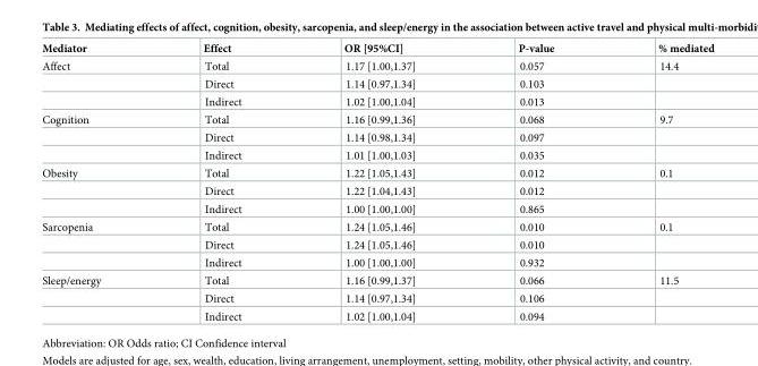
<table><thead><tr><td>Mediator</td><td>Effect</td><td>OR [95%CI]</td><td>P-value</td><td>% mediated</td></tr></thead><tbody><tr><td rowspan="3">Affect</td><td>Total</td><td>1.17 [1.00,1.37]</td><td>0.057</td><td>14.4</td></tr><tr><td>Direct</td><td>1.14 [0.97,1.34]</td><td>0.103</td><td></td></tr><tr><td>Indirect</td><td>1.02 [1.00,1.04]</td><td>0.013</td><td></td></tr><tr><td rowspan="3">Cognition</td><td>Total</td><td>1.16 [0.99,1.36]</td><td>0.068</td><td>9.7</td></tr><tr><td>Direct</td><td>1.14 [0.98,1.34]</td><td>0.097</td><td></td></tr><tr><td>Indirect</td><td>1.01 [1.00,1.03]</td><td>0.035</td><td></td></tr><tr><td rowspan="3">Obesity</td><td>Total</td><td>1.22 [1.05,1.43]</td><td>0.012</td><td>0.1</td></tr><tr><td>Direct</td><td>1.22 [1.04,1.43]</td><td>0.012</td><td></td></tr><tr><td>Indirect</td><td>1.00 [1.00,1.00]</td><td>0.865</td><td></td></tr><tr><td rowspan="3">Sarcopenia</td><td>Total</td><td>1.24 [1.05,1.46]</td><td>0.010</td><td>0.1</td></tr><tr><td>Direct</td><td>1.24 [1.05,1.46]</td><td>0.010</td><td></td></tr><tr><td>Indirect</td><td>1.00 [1.00,1.00]</td><td>0.932</td><td></td></tr><tr><td rowspan="3">Sleep/energy</td><td>Total</td><td>1.16 [0.99,1.37]</td><td>0.066</td><td>11.5</td></tr><tr><td>Direct</td><td>1.14 [0.97,1.34]</td><td>0.106</td><td></td></tr><tr><td>Indirect</td><td>1.02 [1.00,1.04]</td><td>0.094</td><td></td></tr></tbody></table>